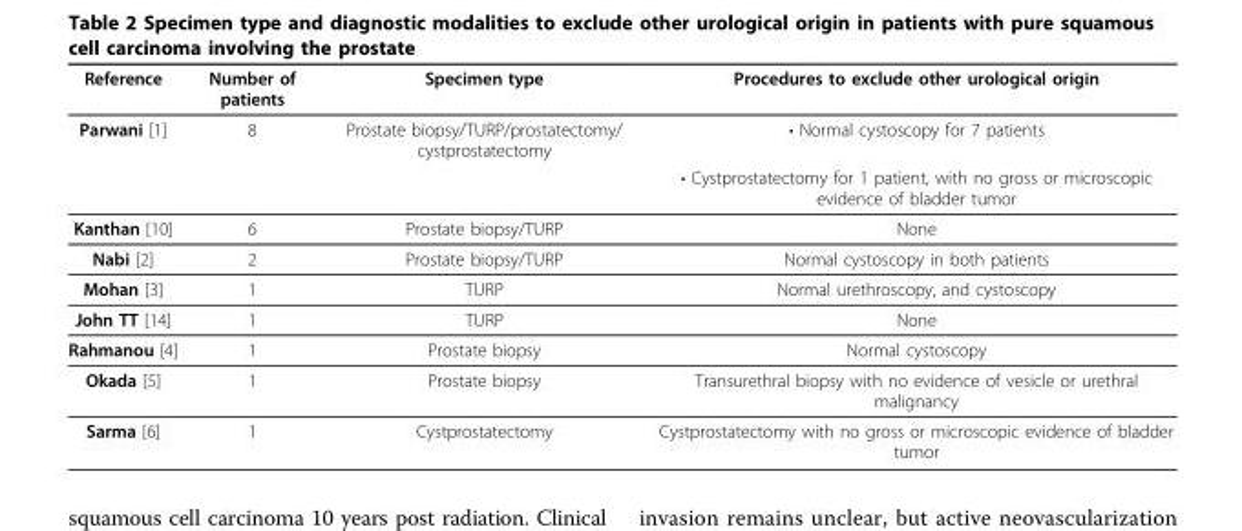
<table><thead><tr><td>Reference</td><td>Number of patients</td><td>Specimen type</td><td>Procedures to exclude other urological origin</td></tr></thead><tbody><tr><td rowspan="2">Parwani [1]</td><td>8</td><td>Prostate biopsy/TURP/prostatectomy/ cystprostatectomy</td><td>• Normal cystoscopy for 7 patients</td></tr><tr><td></td><td></td><td>• Cystprostatectomy for 1 patient, with no gross or microscopic evidence of bladder tumor</td></tr><tr><td>Kanthan [10]</td><td>6</td><td>Prostate biopsy/TURP</td><td>None</td></tr><tr><td>Nabi [2]</td><td>2</td><td>Prostate biopsy/TURP</td><td>Normal cystoscopy in both patients</td></tr><tr><td>Mohan [3]</td><td>1</td><td>TURP</td><td>Normal urethroscopy, and cystoscopy</td></tr><tr><td>John TT [14]</td><td>1</td><td>TURP</td><td>None</td></tr><tr><td>Rahmanou [4]</td><td>1</td><td>Prostate biopsy</td><td>Normal cystoscopy</td></tr><tr><td>Okada [5]</td><td>1</td><td>Prostate biopsy</td><td>Transurethral biopsy with no evidence of vesicle or urethral malignancy</td></tr><tr><td>Sarma [6]</td><td>1</td><td>Cystprostatectomy</td><td>Cystprostatectomy with no gross or microscopic evidence of bladder tumor</td></tr></tbody></table>